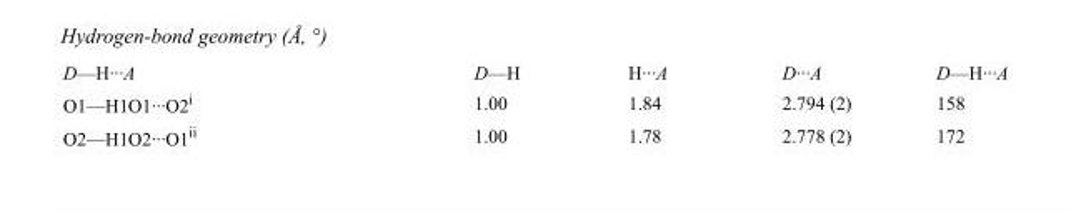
<table><tbody><tr><td>D—H···A</td><td>D—H</td><td>H···A</td><td>D···A</td><td>D—H···A</td></tr><tr><td>O1—H1O1···O2<sup>i</sup></td><td>1.00</td><td>1.84</td><td>2.794 (2)</td><td>158</td></tr><tr><td>O2—H1O2···O1<sup>ii</sup></td><td>1.00</td><td>1.78</td><td>2.778 (2)</td><td>172</td></tr></tbody></table>